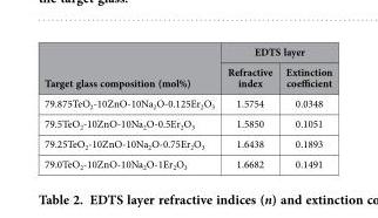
<table><thead><tr><td rowspan="2">Target glass composition (mol%)</td><td colspan="2">EDTS layer</td></tr><tr><td>Refractive index</td><td>Extinction coefficient</td></tr></thead><tbody><tr><td>79.875TeO<sub>2</sub>-10ZnO-10Na<sub>2</sub>O-0.125Er<sub>2</sub>O<sub>3</sub></td><td>1.5754</td><td>0.0348</td></tr><tr><td>79.5TeO<sub>2</sub>-10ZnO-10Na<sub>2</sub>O-0.5Er<sub>2</sub>O<sub>3</sub></td><td>1.5850</td><td>0.1051</td></tr><tr><td>79.25TeO<sub>2</sub>-10ZnO-10Na<sub>2</sub>O-0.75Er<sub>2</sub>O<sub>3</sub></td><td>1.6438</td><td>0.1893</td></tr><tr><td>79.0TeO<sub>2</sub>-10ZnO-10Na<sub>2</sub>O-1Er<sub>2</sub>O<sub>3</sub></td><td>1.6682</td><td>0.1491</td></tr></tbody></table>